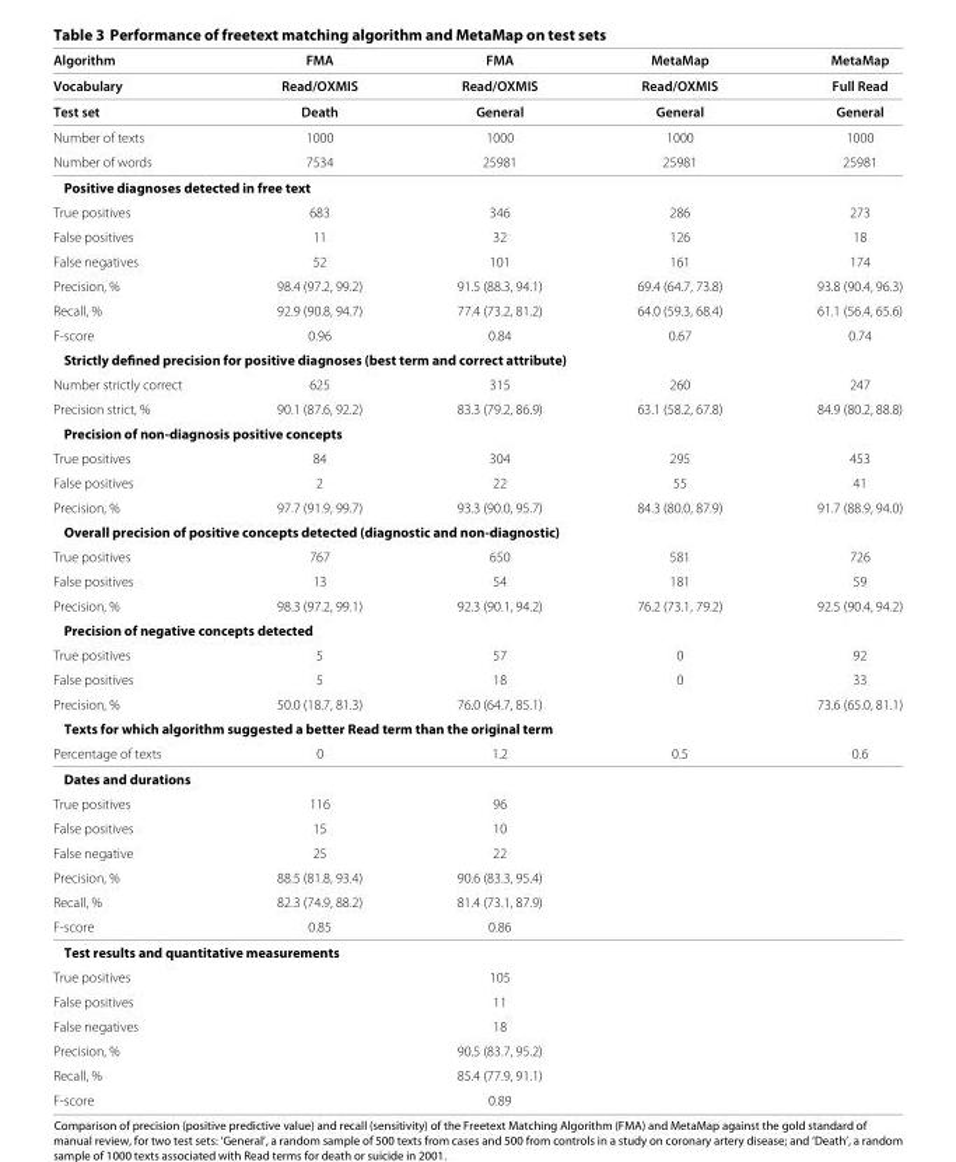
<table><thead><tr><td>Algorithm</td><td>FMA</td><td>FMA</td><td>MetaMap</td><td>MetaMap</td></tr></thead><tbody><tr><td>Vocabulary</td><td>Read/OXMIS</td><td>Read/OXMIS</td><td>Read/OXMIS</td><td>Full Read</td></tr><tr><td>Test set</td><td>Death</td><td>General</td><td>General</td><td>General</td></tr><tr><td>Number of texts</td><td>1000</td><td>1000</td><td>1000</td><td>1000</td></tr><tr><td>Number of words</td><td>7534</td><td>25981</td><td>25981</td><td>25981</td></tr><tr><td colspan="5">Positive diagnoses detected in free text</td></tr><tr><td>True positives</td><td>683</td><td>346</td><td>286</td><td>273</td></tr><tr><td>False positives</td><td>11</td><td>32</td><td>126</td><td>18</td></tr><tr><td>False negatives</td><td>52</td><td>101</td><td>161</td><td>174</td></tr><tr><td>Precision, %</td><td>98.4 (97.2, 99.2)</td><td>91.5 (88.3, 94.1)</td><td>69.4 (64.7, 73.8)</td><td>93.8 (90.4, 96.3)</td></tr><tr><td>Recall, %</td><td>92.9 (90.8, 94.7)</td><td>77.4 (73.2, 81.2)</td><td>64.0 (59.3, 68.4)</td><td>61.1 (56.4, 65.6)</td></tr><tr><td>F-score</td><td>0.96</td><td>0.84</td><td>0.67</td><td>0.74</td></tr><tr><td colspan="5">Strictly defined precision for positive diagnoses (best term and correct attribute)</td></tr><tr><td>Number strictly correct</td><td>625</td><td>315</td><td>260</td><td>247</td></tr><tr><td>Precision strict, %</td><td>90.1 (87.6, 92.2)</td><td>83.3 (79.2, 86.9)</td><td>63.1 (58.2, 67.8)</td><td>84.9 (80.2, 88.8)</td></tr><tr><td colspan="5">Precision of non-diagnosis positive concepts</td></tr><tr><td>True positives</td><td>84</td><td>304</td><td>295</td><td>453</td></tr><tr><td>False positives</td><td>2</td><td>22</td><td>55</td><td>41</td></tr><tr><td>Precision, %</td><td>97.7 (91.9, 99.7)</td><td>93.3 (90.0, 95.7)</td><td>84.3 (80.0, 87.9)</td><td>91.7 (88.9, 94.0)</td></tr><tr><td colspan="5">Overall precision of positive concepts detected (diagnostic and non-diagnostic)</td></tr><tr><td>True positives</td><td>767</td><td>650</td><td>581</td><td>726</td></tr><tr><td>False positives</td><td>13</td><td>54</td><td>181</td><td>59</td></tr><tr><td>Precision, %</td><td>98.3 (97.2, 99.1)</td><td>92.3 (90.1, 94.2)</td><td>76.2 (73.1, 79.2)</td><td>92.5 (90.4, 94.2)</td></tr><tr><td colspan="5">Precision of negative concepts detected</td></tr><tr><td>True positives</td><td>5</td><td>57</td><td>0</td><td>92</td></tr><tr><td>False positives</td><td>5</td><td>18</td><td>0</td><td>33</td></tr><tr><td>Precision, %</td><td>50.0 (18.7, 81.3)</td><td>76.0 (64.7, 85.1)</td><td></td><td>73.6 (65.0, 81.1)</td></tr><tr><td colspan="5">Texts for which algorithm suggested a better Read term than the original term</td></tr><tr><td>Percentage of texts</td><td>0</td><td>1.2</td><td>0.5</td><td>0.6</td></tr><tr><td colspan="5">Dates and durations</td></tr><tr><td>True positives</td><td>116</td><td>96</td><td></td><td></td></tr><tr><td>False positives</td><td>15</td><td>10</td><td></td><td></td></tr><tr><td>False negative</td><td>25</td><td>22</td><td></td><td></td></tr><tr><td>Precision, %</td><td>88.5 (81.8, 93.4)</td><td>90.6 (83.3, 95.4)</td><td></td><td></td></tr><tr><td>Recall, %</td><td>82.3 (74.9, 88.2)</td><td>81.4 (73.1, 87.9)</td><td></td><td></td></tr><tr><td>F-score</td><td>0.85</td><td>0.86</td><td></td><td></td></tr><tr><td colspan="5">Test results and quantitative measurements</td></tr><tr><td>True positives</td><td></td><td>105</td><td></td><td></td></tr><tr><td>False positives</td><td></td><td>11</td><td></td><td></td></tr><tr><td>False negatives</td><td></td><td>18</td><td></td><td></td></tr><tr><td>Precision, %</td><td></td><td>90.5 (83.7, 95.2)</td><td></td><td></td></tr><tr><td>Recall, %</td><td></td><td>85.4 (77.9, 91.1)</td><td></td><td></td></tr><tr><td>F-score</td><td></td><td>0.89</td><td></td><td></td></tr></tbody></table>